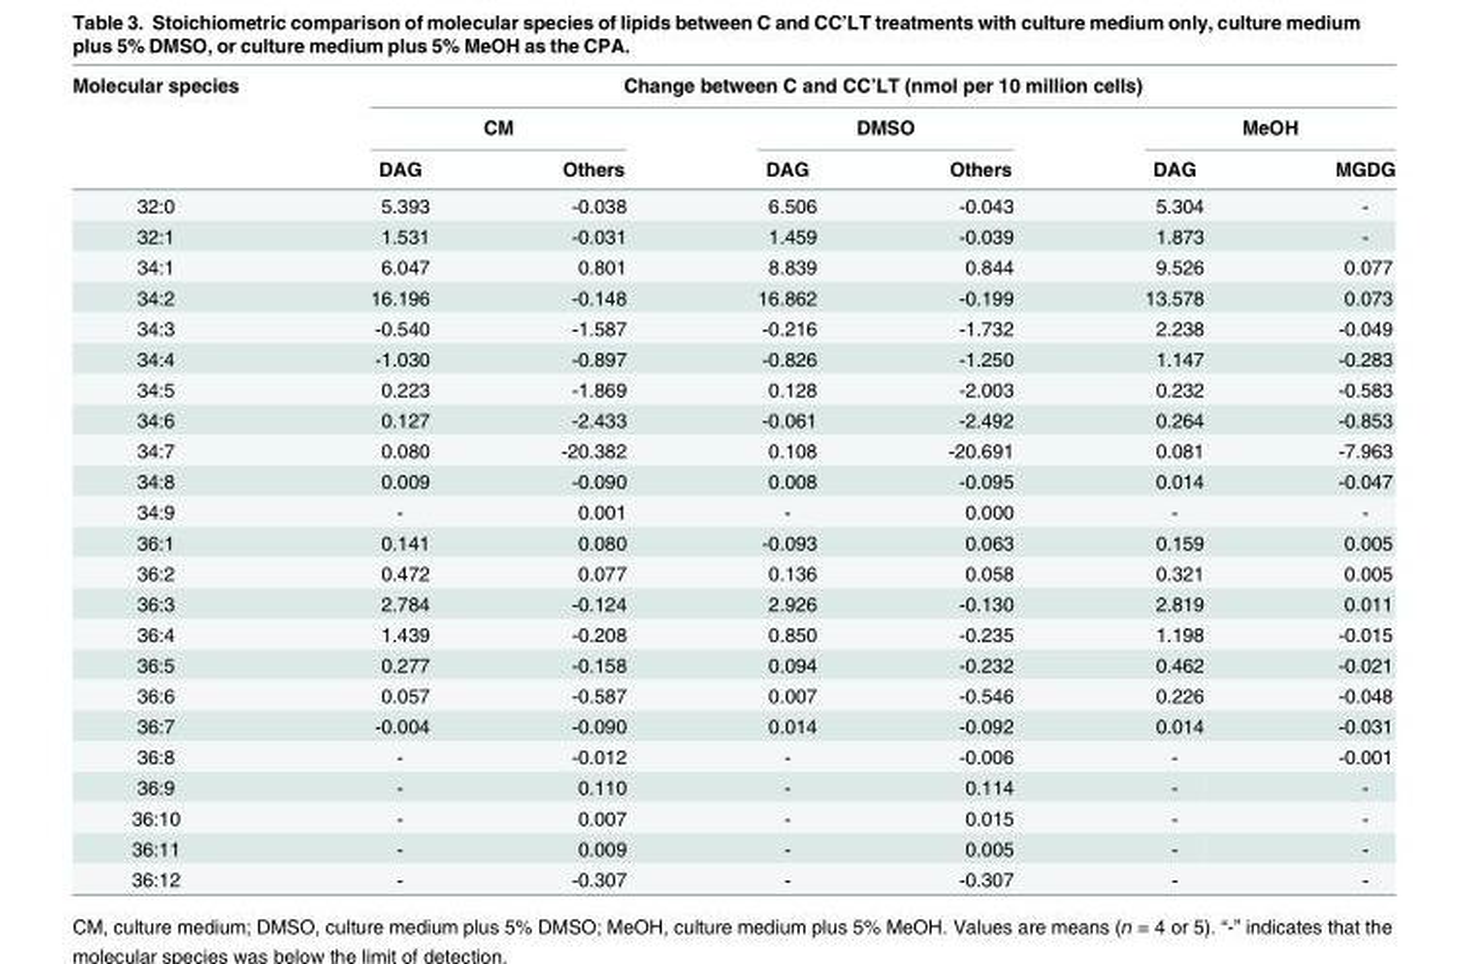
<table><thead><tr><td rowspan="3">Molecular species</td><td colspan="6">Change between C and CC’LT (nmol per 10 million cells)</td></tr><tr><td colspan="2">CM</td><td colspan="2">DMSO</td><td colspan="2">MeOH</td></tr><tr><td>DAG</td><td>Others</td><td>DAG</td><td>Others</td><td>DAG</td><td>MGDG</td></tr></thead><tbody><tr><td>32:0</td><td>5.393</td><td>-0.038</td><td>6.506</td><td>-0.043</td><td>5.304</td><td>-</td></tr><tr><td>32:1</td><td>1.531</td><td>-0.031</td><td>1.459</td><td>-0.039</td><td>1.873</td><td>-</td></tr><tr><td>34:1</td><td>6.047</td><td>0.801</td><td>8.839</td><td>0.844</td><td>9.526</td><td>0.077</td></tr><tr><td>34:2</td><td>16.196</td><td>-0.148</td><td>16.862</td><td>-0.199</td><td>13.578</td><td>0.073</td></tr><tr><td>34:3</td><td>-0.540</td><td>-1.587</td><td>-0.216</td><td>-1.732</td><td>2.238</td><td>-0.049</td></tr><tr><td>34:4</td><td>-1.030</td><td>-0.897</td><td>-0.826</td><td>-1.250</td><td>1.147</td><td>-0.283</td></tr><tr><td>34:5</td><td>0.223</td><td>-1.869</td><td>0.128</td><td>-2.003</td><td>0.232</td><td>-0.583</td></tr><tr><td>34:6</td><td>0.127</td><td>-2.433</td><td>-0.061</td><td>-2.492</td><td>0.264</td><td>-0.853</td></tr><tr><td>34:7</td><td>0.080</td><td>-20.382</td><td>0.108</td><td>-20.691</td><td>0.081</td><td>-7.963</td></tr><tr><td>34:8</td><td>0.009</td><td>-0.090</td><td>0.008</td><td>-0.095</td><td>0.014</td><td>-0.047</td></tr><tr><td>34:9</td><td>-</td><td>0.001</td><td>-</td><td>0.000</td><td>-</td><td>-</td></tr><tr><td>36:1</td><td>0.141</td><td>0.080</td><td>-0.093</td><td>0.063</td><td>0.159</td><td>0.005</td></tr><tr><td>36:2</td><td>0.472</td><td>0.077</td><td>0.136</td><td>0.058</td><td>0.321</td><td>0.005</td></tr><tr><td>36:3</td><td>2.784</td><td>-0.124</td><td>2.926</td><td>-0.130</td><td>2.819</td><td>0.011</td></tr><tr><td>36:4</td><td>1.439</td><td>-0.208</td><td>0.850</td><td>-0.235</td><td>1.198</td><td>-0.015</td></tr><tr><td>36:5</td><td>0.277</td><td>-0.158</td><td>0.094</td><td>-0.232</td><td>0.462</td><td>-0.021</td></tr><tr><td>36:6</td><td>0.057</td><td>-0.587</td><td>0.007</td><td>-0.546</td><td>0.226</td><td>-0.048</td></tr><tr><td>36:7</td><td>-0.004</td><td>-0.090</td><td>0.014</td><td>-0.092</td><td>0.014</td><td>-0.031</td></tr><tr><td>36:8</td><td>-</td><td>-0.012</td><td>-</td><td>-0.006</td><td>-</td><td>-0.001</td></tr><tr><td>36:9</td><td>-</td><td>0.110</td><td>-</td><td>0.114</td><td>-</td><td>-</td></tr><tr><td>36:10</td><td>-</td><td>0.007</td><td>-</td><td>0.015</td><td>-</td><td>-</td></tr><tr><td>36:11</td><td>-</td><td>0.009</td><td>-</td><td>0.005</td><td>-</td><td>-</td></tr><tr><td>36:12</td><td>-</td><td>-0.307</td><td>-</td><td>-0.307</td><td>-</td><td>-</td></tr></tbody></table>